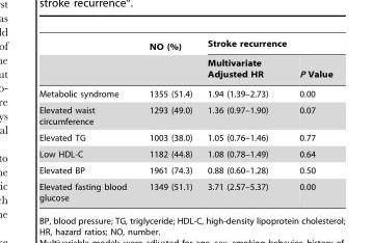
<table><thead><tr><td rowspan="2"></td><td rowspan="2">NO (%)</td><td colspan="2">Stroke recurrence</td></tr><tr><td>Multivariate Adjusted HR</td><td>P Value</td></tr></thead><tbody><tr><td>Metabolic syndrome</td><td>1355 (51.4)</td><td>1.94 (1.39–2.73)</td><td>0.00</td></tr><tr><td>Elevated waist circumference</td><td>1293 (49.0)</td><td>1.36 (0.97–1.90)</td><td>0.07</td></tr><tr><td>Elevated TG</td><td>1003 (38.0)</td><td>1.05 (0.76–1.46)</td><td>0.77</td></tr><tr><td>Low HDL-C</td><td>1182 (44.8)</td><td>1.08 (0.78–1.49)</td><td>0.64</td></tr><tr><td>Elevated BP</td><td>1961 (74.3)</td><td>0.88 (0.60–1.28)</td><td>0.50</td></tr><tr><td>Elevated fasting blood glucose</td><td>1349 (51.1)</td><td>3.71 (2.57–5.37)</td><td>0.00</td></tr></tbody></table>